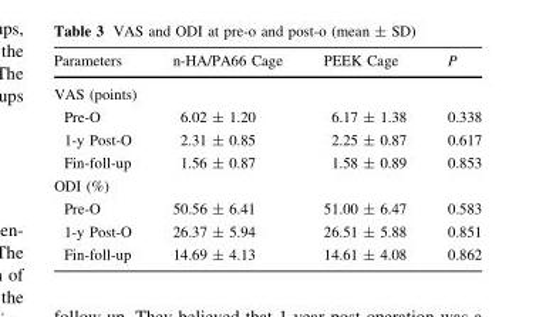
<table><thead><tr><td>Parameters</td><td>n-HA/PA66 Cage</td><td>PEEK Cage</td><td>P</td></tr></thead><tbody><tr><td colspan="4">VAS (points)</td></tr><tr><td>Pre-O</td><td>6.02 ± 1.20</td><td>6.17 ± 1.38</td><td>0.338</td></tr><tr><td>1-y Post-O</td><td>2.31 ± 0.85</td><td>2.25 ± 0.87</td><td>0.617</td></tr><tr><td>Fin-foll-up</td><td>1.56 ± 0.87</td><td>1.58 ± 0.89</td><td>0.853</td></tr><tr><td colspan="4">ODI (%)</td></tr><tr><td>Pre-O</td><td>50.56 ± 6.41</td><td>51.00 ± 6.47</td><td>0.583</td></tr><tr><td>1-y Post-O</td><td>26.37 ± 5.94</td><td>26.51 ± 5.88</td><td>0.851</td></tr><tr><td>Fin-foll-up</td><td>14.69 ± 4.13</td><td>14.61 ± 4.08</td><td>0.862</td></tr></tbody></table>